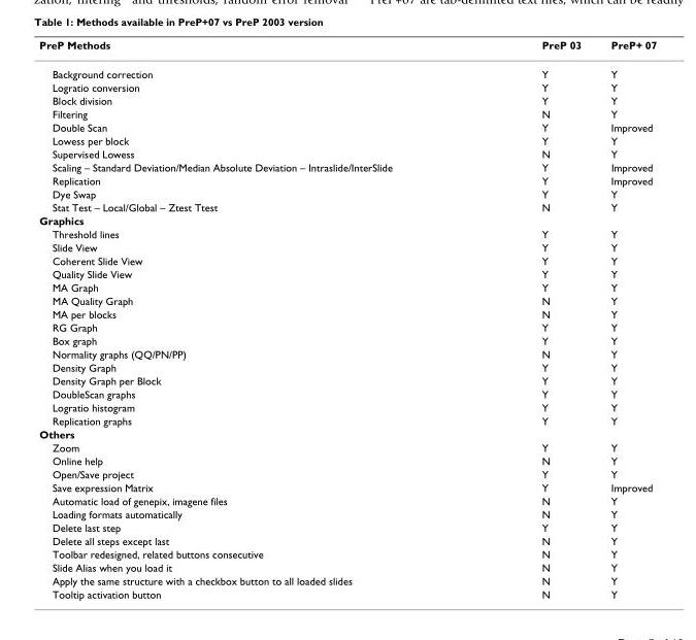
<table><thead><tr><td>PreP Methods</td><td>PreP 03</td><td>PreP+ 07</td></tr></thead><tbody><tr><td>Background correction</td><td>Y</td><td>Y</td></tr><tr><td>Logratio conversion</td><td>Y</td><td>Y</td></tr><tr><td>Block division</td><td>Y</td><td>Y</td></tr><tr><td>Filtering</td><td>N</td><td>Y</td></tr><tr><td>Double Scan</td><td>Y</td><td>Improved</td></tr><tr><td>Lowess per block</td><td>Y</td><td>Y</td></tr><tr><td>Supervised Lowess</td><td>N</td><td>Y</td></tr><tr><td>Scaling – Standard Deviation/Median Absolute Deviation – Intraslide/InterSlide</td><td>Y</td><td>Improved</td></tr><tr><td>Replication</td><td>Y</td><td>Improved</td></tr><tr><td>Dye Swap</td><td>Y</td><td>Y</td></tr><tr><td>Stat Test – Local/Global – Ztest Ttest</td><td>N</td><td>Y</td></tr><tr><td colspan="3">Graphics</td></tr><tr><td>Threshold lines</td><td>Y</td><td>Y</td></tr><tr><td>Slide View</td><td>Y</td><td>Y</td></tr><tr><td>Coherent Slide View</td><td>Y</td><td>Y</td></tr><tr><td>Quality Slide View</td><td>Y</td><td>Y</td></tr><tr><td>MA Graph</td><td>Y</td><td>Y</td></tr><tr><td>MA Quality Graph</td><td>N</td><td>Y</td></tr><tr><td>MA per blocks</td><td>N</td><td>Y</td></tr><tr><td>RG Graph</td><td>Y</td><td>Y</td></tr><tr><td>Box graph</td><td>Y</td><td>Y</td></tr><tr><td>Normality graphs (QQ/PN/PP)</td><td>N</td><td>Y</td></tr><tr><td>Density Graph</td><td>Y</td><td>Y</td></tr><tr><td>Density Graph per Block</td><td>Y</td><td>Y</td></tr><tr><td>DoubleScan graphs</td><td>Y</td><td>Y</td></tr><tr><td>Logratio histogram</td><td>Y</td><td>Y</td></tr><tr><td>Replication graphs</td><td>Y</td><td>Y</td></tr><tr><td colspan="3">Others</td></tr><tr><td>Zoom</td><td>Y</td><td>Y</td></tr><tr><td>Online help</td><td>N</td><td>Y</td></tr><tr><td>Open/Save project</td><td>Y</td><td>Y</td></tr><tr><td>Save expression Matrix</td><td>Y</td><td>Improved</td></tr><tr><td>Automatic load of genepix, imagene files</td><td>N</td><td>Y</td></tr><tr><td>Loading formats automatically</td><td>N</td><td>Y</td></tr><tr><td>Delete last step</td><td>Y</td><td>Y</td></tr><tr><td>Delete all steps except last</td><td>N</td><td>Y</td></tr><tr><td>Toolbar redesigned, related buttons consecutive</td><td>N</td><td>Y</td></tr><tr><td>Slide Alias when you load it</td><td>N</td><td>Y</td></tr><tr><td>Apply the same structure with a checkbox button to all loaded slides</td><td>N</td><td>Y</td></tr><tr><td>Tooltip activation button</td><td>N</td><td>Y</td></tr></tbody></table>